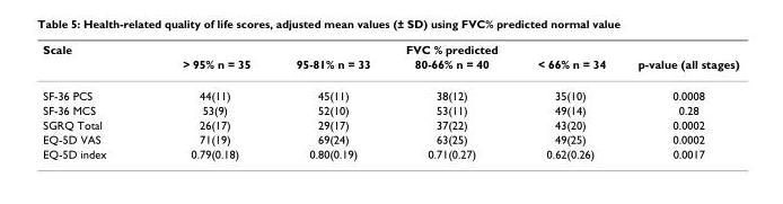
<table><thead><tr><td rowspan="2">Scale</td><td colspan="5">FVC % predicted</td></tr><tr><td>&gt; 95% n = 35</td><td>95-81% n = 33</td><td>80-66% n = 40</td><td>&lt; 66% n = 34</td><td>p-value (all stages)</td></tr></thead><tbody><tr><td>SF-36 PCS</td><td>44(11)</td><td>45(11)</td><td>38(12)</td><td>35(10)</td><td>0.0008</td></tr><tr><td>SF-36 MCS</td><td>53(9)</td><td>52(10)</td><td>53(11)</td><td>49(14)</td><td>0.28</td></tr><tr><td>SGRQ Total</td><td>26(17)</td><td>29(17)</td><td>37(22)</td><td>43(20)</td><td>0.0002</td></tr><tr><td>EQ-5D VAS</td><td>71(19)</td><td>69(24)</td><td>63(25)</td><td>49(25)</td><td>0.0002</td></tr><tr><td>EQ-5D index</td><td>0.79(0.18)</td><td>0.80(0.19)</td><td>0.71(0.27)</td><td>0.62(0.26)</td><td>0.0017</td></tr></tbody></table>